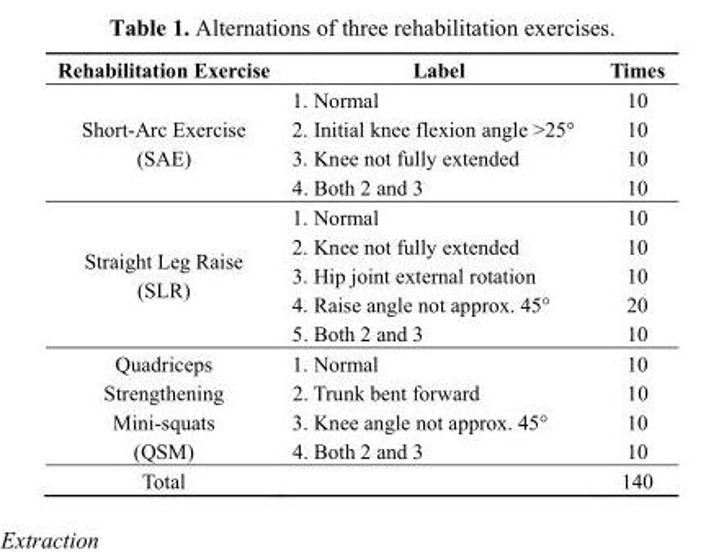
<table><thead><tr><td>Rehabilitation Exercise</td><td>Label</td><td>Times</td></tr></thead><tbody><tr><td rowspan="4">Short-Arc Exercise (SAE)</td><td>1. Normal</td><td>10</td></tr><tr><td>2. Initial knee flexion angle &gt;25°</td><td>10</td></tr><tr><td>3. Knee not fully extended</td><td>10</td></tr><tr><td>4. Both 2 and 3</td><td>10</td></tr><tr><td rowspan="5">Straight Leg Raise (SLR)</td><td>1. Normal</td><td>10</td></tr><tr><td>2. Knee not fully extended</td><td>10</td></tr><tr><td>3. Hip joint external rotation</td><td>10</td></tr><tr><td>4. Raise angle not approx. 45°</td><td>20</td></tr><tr><td>5. Both 2 and 3</td><td>10</td></tr><tr><td>Quadriceps</td><td>1. Normal</td><td>10</td></tr><tr><td>Strengthening</td><td>2. Trunk bent forward</td><td>10</td></tr><tr><td>Mini-squats</td><td>3. Knee angle not approx. 45°</td><td>10</td></tr><tr><td>(QSM)</td><td>4. Both 2 and 3</td><td>10</td></tr><tr><td>Total</td><td></td><td>140</td></tr></tbody></table>